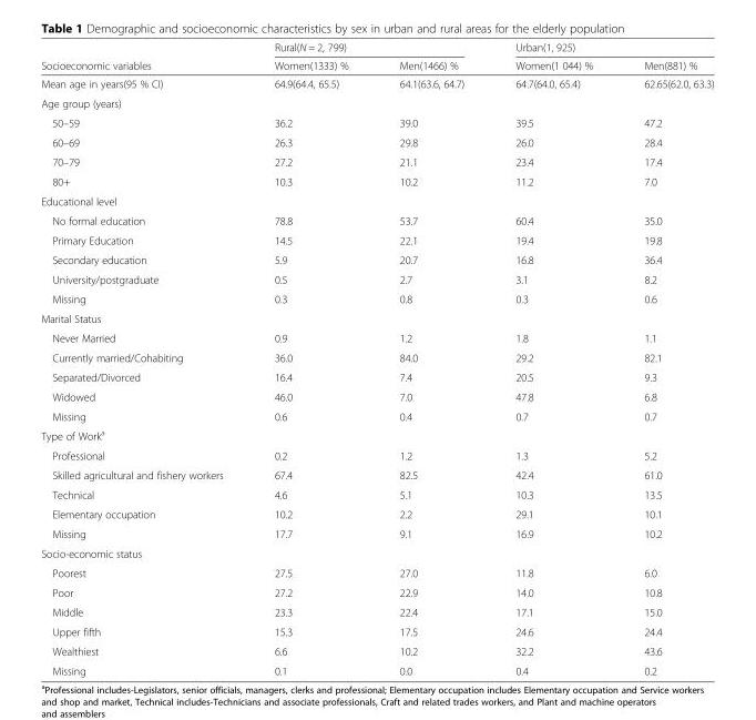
<table><thead><tr><td rowspan="2">Socioeconomic variables</td><td colspan="2">Rural(N = 2, 799)</td><td colspan="2">Urban(1, 925)</td></tr><tr><td>Women(1333) %</td><td>Men(1466) %</td><td>Women(1 044) %</td><td>Men(881) %</td></tr></thead><tbody><tr><td>Mean age in years(95 % CI)</td><td>64.9(64.4, 65.5)</td><td>64.1(63.6, 64.7)</td><td>64.7(64.0, 65.4)</td><td>62.65(62.0, 63.3)</td></tr><tr><td colspan="5">Age group (years)</td></tr><tr><td>50–59</td><td>36.2</td><td>39.0</td><td>39.5</td><td>47.2</td></tr><tr><td>60–69</td><td>26.3</td><td>29.8</td><td>26.0</td><td>28.4</td></tr><tr><td>70–79</td><td>27.2</td><td>21.1</td><td>23.4</td><td>17.4</td></tr><tr><td>80+</td><td>10.3</td><td>10.2</td><td>11.2</td><td>7.0</td></tr><tr><td colspan="5">Educational level</td></tr><tr><td>No formal education</td><td>78.8</td><td>53.7</td><td>60.4</td><td>35.0</td></tr><tr><td>Primary Education</td><td>14.5</td><td>22.1</td><td>19.4</td><td>19.8</td></tr><tr><td>Secondary education</td><td>5.9</td><td>20.7</td><td>16.8</td><td>36.4</td></tr><tr><td>University/postgraduate</td><td>0.5</td><td>2.7</td><td>3.1</td><td>8.2</td></tr><tr><td>Missing</td><td>0.3</td><td>0.8</td><td>0.3</td><td>0.6</td></tr><tr><td colspan="5">Marital Status</td></tr><tr><td>Never Married</td><td>0.9</td><td>1.2</td><td>1.8</td><td>1.1</td></tr><tr><td>Currently married/Cohabiting</td><td>36.0</td><td>84.0</td><td>29.2</td><td>82.1</td></tr><tr><td>Separated/Divorced</td><td>16.4</td><td>7.4</td><td>20.5</td><td>9.3</td></tr><tr><td>Widowed</td><td>46.0</td><td>7.0</td><td>47.8</td><td>6.8</td></tr><tr><td>Missing</td><td>0.6</td><td>0.4</td><td>0.7</td><td>0.7</td></tr><tr><td colspan="5">Type of Work<sup>a</sup></td></tr><tr><td>Professional</td><td>0.2</td><td>1.2</td><td>1.3</td><td>5.2</td></tr><tr><td>Skilled agricultural and fishery workers</td><td>67.4</td><td>82.5</td><td>42.4</td><td>61.0</td></tr><tr><td>Technical</td><td>4.6</td><td>5.1</td><td>10.3</td><td>13.5</td></tr><tr><td>Elementary occupation</td><td>10.2</td><td>2.2</td><td>29.1</td><td>10.1</td></tr><tr><td>Missing</td><td>17.7</td><td>9.1</td><td>16.9</td><td>10.2</td></tr><tr><td colspan="5">Socio-economic status</td></tr><tr><td>Poorest</td><td>27.5</td><td>27.0</td><td>11.8</td><td>6.0</td></tr><tr><td>Poor</td><td>27.2</td><td>22.9</td><td>14.0</td><td>10.8</td></tr><tr><td>Middle</td><td>23.3</td><td>22.4</td><td>17.1</td><td>15.0</td></tr><tr><td>Upper fifth</td><td>15.3</td><td>17.5</td><td>24.6</td><td>24.4</td></tr><tr><td>Wealthiest</td><td>6.6</td><td>10.2</td><td>32.2</td><td>43.6</td></tr><tr><td>Missing</td><td>0.1</td><td>0.0</td><td>0.4</td><td>0.2</td></tr></tbody></table>